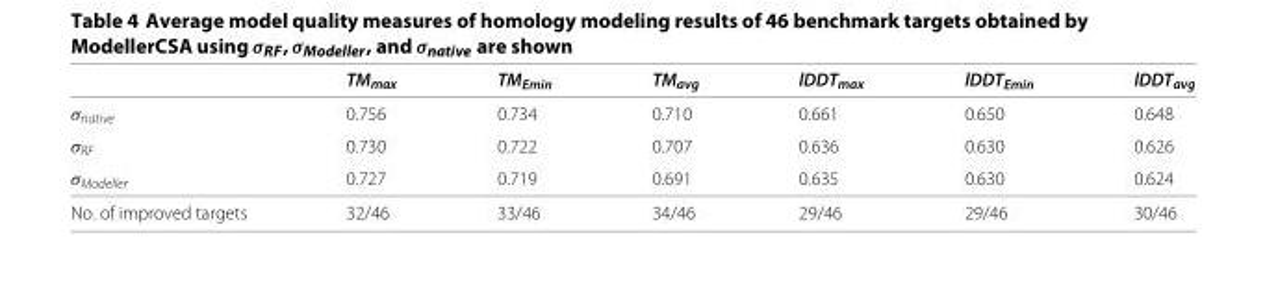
<table><thead><tr><td></td><td>TM<sub>max</sub></td><td>TM<sub>Emin</sub></td><td>TM<sub>avg</sub></td><td>lDDT<sub>max</sub></td><td>lDDT<sub>Emin</sub></td><td>lDDT<sub>avg</sub></td></tr></thead><tbody><tr><td>σ<sub>native</sub></td><td>0.756</td><td>0.734</td><td>0.710</td><td>0.661</td><td>0.650</td><td>0.648</td></tr><tr><td>σ<sub>RF</sub></td><td>0.730</td><td>0.722</td><td>0.707</td><td>0.636</td><td>0.630</td><td>0.626</td></tr><tr><td>σ<sub>Modeller</sub></td><td>0.727</td><td>0.719</td><td>0.691</td><td>0.635</td><td>0.630</td><td>0.624</td></tr><tr><td>No. of improved targets</td><td>32/46</td><td>33/46</td><td>34/46</td><td>29/46</td><td>29/46</td><td>30/46</td></tr></tbody></table>